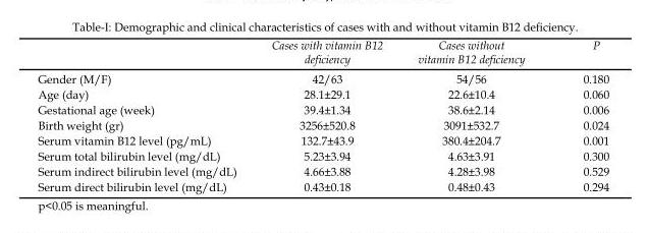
<table><thead><tr><td></td><td>Cases with vitamin B12 deficiency</td><td>Cases without vitamin B12 deficiency</td><td>P</td></tr></thead><tbody><tr><td>Gender (M/F)</td><td>42/63</td><td>54/56</td><td>0.180</td></tr><tr><td>Age (day)</td><td>28.1±29.1</td><td>22.6±10.4</td><td>0.060</td></tr><tr><td>Gestational age (week)</td><td>39.4±1.34</td><td>38.6±2.14</td><td>0.006</td></tr><tr><td>Birth weight (gr)</td><td>3256±520.8</td><td>3091±532.7</td><td>0.024</td></tr><tr><td>Serum vitamin B12 level (pg/mL)</td><td>132.7±43.9</td><td>380.4±204.7</td><td>0.001</td></tr><tr><td>Serum total bilirubin level (mg/dL)</td><td>5.23±3.94</td><td>4.63±3.91</td><td>0.300</td></tr><tr><td>Serum indirect bilirubin level (mg/dL)</td><td>4.66±3.88</td><td>4.28±3.98</td><td>0.529</td></tr><tr><td>Serum direct bilirubin level (mg/dL)</td><td>0.43±0.18</td><td>0.48±0.43</td><td>0.294</td></tr></tbody></table>